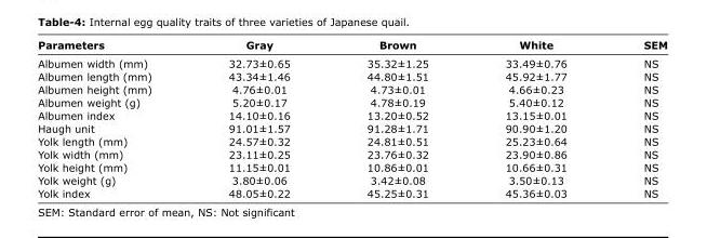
<table><thead><tr><td>Parameters</td><td>Gray</td><td>Brown</td><td>White</td><td>SEM</td></tr></thead><tbody><tr><td>Albumen width (mm)</td><td>32.73±0.65</td><td>35.32±1.25</td><td>33.49±0.76</td><td>NS</td></tr><tr><td>Albumen length (mm)</td><td>43.34±1.46</td><td>44.80±1.51</td><td>45.92±1.77</td><td>NS</td></tr><tr><td>Albumen height (mm)</td><td>4.76±0.01</td><td>4.73±0.01</td><td>4.66±0.23</td><td>NS</td></tr><tr><td>Albumen weight (g)</td><td>5.20±0.17</td><td>4.78±0.19</td><td>5.40±0.12</td><td>NS</td></tr><tr><td>Albumen index</td><td>14.10±0.16</td><td>13.20±0.52</td><td>13.15±0.01</td><td>NS</td></tr><tr><td>Haugh unit</td><td>91.01±1.57</td><td>91.28±1.71</td><td>90.90±1.20</td><td>NS</td></tr><tr><td>Yolk length (mm)</td><td>24.57±0.32</td><td>24.81±0.51</td><td>25.23±0.64</td><td>NS</td></tr><tr><td>Yolk width (mm)</td><td>23.11±0.25</td><td>23.76±0.32</td><td>23.90±0.86</td><td>NS</td></tr><tr><td>Yolk height (mm)</td><td>11.15±0.01</td><td>10.86±0.01</td><td>10.66±0.31</td><td>NS</td></tr><tr><td>Yolk weight (g)</td><td>3.80±0.06</td><td>3.42±0.08</td><td>3.50±0.13</td><td>NS</td></tr><tr><td>Yolk index</td><td>48.05±0.22</td><td>45.25±0.31</td><td>45.36±0.03</td><td>NS</td></tr></tbody></table>